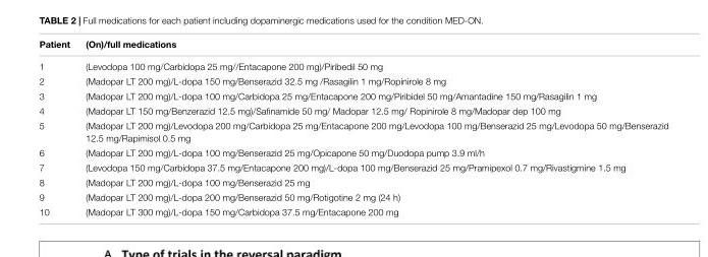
<table><thead><tr><td>Patient</td><td>(On)/full medications</td></tr></thead><tbody><tr><td>1</td><td>(Levodopa 100 mg/Carbidopa 25 mg//Entacapone 200 mg)/Piribedil 50 mg</td></tr><tr><td>2</td><td>(Madopar LT 200 mg)/L-dopa 150 mg/Benserazid 32.5 mg /Rasagilin 1 mg/Ropinirole 8 mg</td></tr><tr><td>3</td><td>(Madopar LT 200 mg)/L-dopa 100 mg/Carbidopa 25 mg/Entacapone 200 mg/Piribidel 50 mg/Amantadine 150 mg/Rasagilin 1 mg</td></tr><tr><td>4</td><td>(Madopar LT 150 mg/Benzerazid 12.5 mg)/Safinamide 50 mg/ Madopar 12.5 mg/ Ropinirole 8 mg/Madopar dep 100 mg</td></tr><tr><td>5</td><td>(Madopar LT 200 mg)/Levodopa 200 mg/Carbidopa 25 mg/Entacapone 200 mg/Levodopa 100 mg/Benserazid 25 mg/Levodopa 50 mg/Benserazid 12.5 mg/Rapimisol 0.5 mg</td></tr><tr><td>6</td><td>(Madopar LT 200 mg)/L-dopa 100 mg/Benserazid 25 mg/Opicapone 50 mg/Duodopa pump 3.9 ml/h</td></tr><tr><td>7</td><td>(Levodopa 150 mg/Carbidopa 37.5 mg/Entacapone 200 mg)/L-dopa 100 mg/Benserazid 25 mg/Pramipexol 0.7 mg/Rivastigmine 1.5 mg</td></tr><tr><td>8</td><td>(Madopar LT 200 mg)/L-dopa 100 mg/Benserazid 25 mg</td></tr><tr><td>9</td><td>(Madopar LT 200 mg)/L-dopa 200 mg/Benserazid 50 mg/Rotigotine 2 mg (24 h)</td></tr><tr><td>10</td><td>(Madopar LT 300 mg)/L-dopa 150 mg/Carbidopa 37.5 mg/Entacapone 200 mg</td></tr></tbody></table>